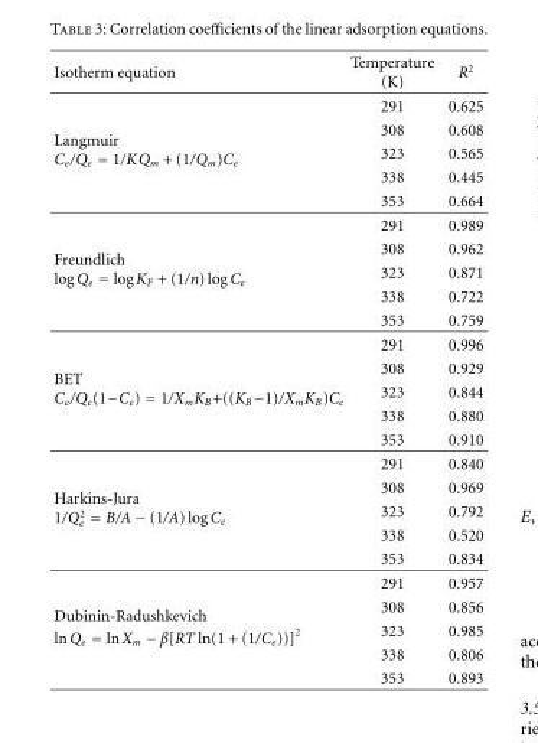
<table><thead><tr><td>Isotherm equation</td><td>Temperature (K)</td><td>R<sup>2</sup></td></tr></thead><tbody><tr><td rowspan="5">Langmuir C<sub>e</sub>/Q<sub>e</sub> = 1/KQ<sub>m</sub> + (1/Q<sub>m</sub>)C<sub>e</sub></td><td>291</td><td>0.625</td></tr><tr><td>308</td><td>0.608</td></tr><tr><td>323</td><td>0.565</td></tr><tr><td>338</td><td>0.445</td></tr><tr><td>353</td><td>0.664</td></tr><tr><td rowspan="5">Freundlich log Q<sub>e</sub> = log K<sub>F</sub> + (1/n)logC<sub>e</sub></td><td>291</td><td>0.989</td></tr><tr><td>308</td><td>0.962</td></tr><tr><td>323</td><td>0.871</td></tr><tr><td>338</td><td>0.722</td></tr><tr><td>353</td><td>0.759</td></tr><tr><td rowspan="5">BET C<sub>e</sub>/Q<sub>e</sub>(1−C<sub>e</sub>) = 1/X<sub>m</sub>K<sub>B</sub>+((K<sub>B</sub>−1)/X<sub>m</sub>K<sub>B</sub>)C<sub>e</sub></td><td>291</td><td>0.996</td></tr><tr><td>308</td><td>0.929</td></tr><tr><td>323</td><td>0.844</td></tr><tr><td>338</td><td>0.880</td></tr><tr><td>353</td><td>0.910</td></tr><tr><td rowspan="5">Harkins-Jura 1/Q2 e = B/A − (1/A)logCe</td><td>291</td><td>0.840</td></tr><tr><td>308</td><td>0.969</td></tr><tr><td>323</td><td>0.792</td></tr><tr><td>338</td><td>0.520</td></tr><tr><td>353</td><td>0.834</td></tr><tr><td rowspan="5">Dubinin-Radushkevich lnQ<sub>e</sub> = lnX<sub>m</sub> − β[RT ln(1 + (1/C<sub>e</sub>))]<sup>2</sup></td><td>291</td><td>0.957</td></tr><tr><td>308</td><td>0.856</td></tr><tr><td>323</td><td>0.985</td></tr><tr><td>338</td><td>0.806</td></tr><tr><td>353</td><td>0.893</td></tr></tbody></table>